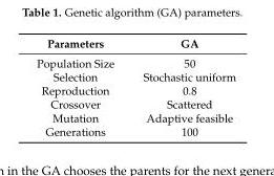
<table><thead><tr><td>Parameters</td><td>GA</td></tr></thead><tbody><tr><td>Population Size</td><td>50</td></tr><tr><td>Selection</td><td>Stochastic uniform</td></tr><tr><td>Reproduction</td><td>0.8</td></tr><tr><td>Crossover</td><td>Scattered</td></tr><tr><td>Mutation</td><td>Adaptive feasible</td></tr><tr><td>Generations</td><td>100</td></tr></tbody></table>